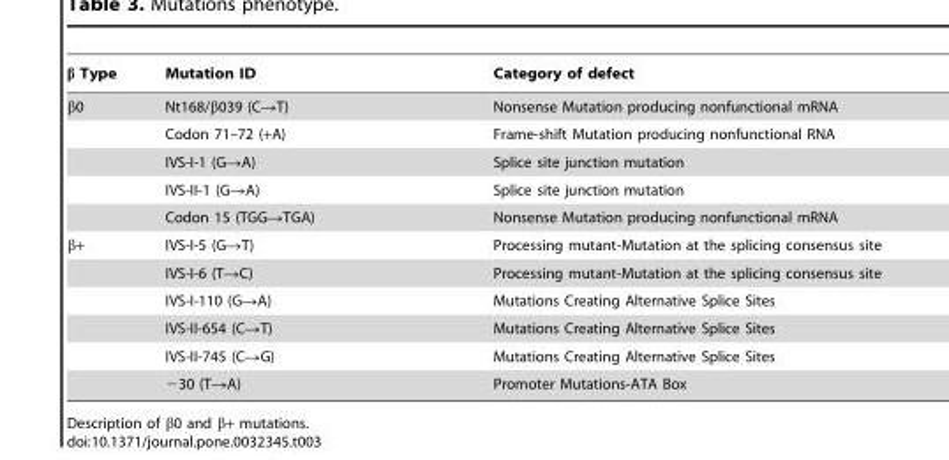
<table><thead><tr><td>β Type</td><td>Mutation ID</td><td>Category of defect</td></tr></thead><tbody><tr><td rowspan="5">β0</td><td>Nt168/β039 (C→T)</td><td>Nonsense Mutation producing nonfunctional mRNA</td></tr><tr><td>Codon 71–72 (+A)</td><td>Frame-shift Mutation producing nonfunctional RNA</td></tr><tr><td>IVS-I-1 (G→A)</td><td>Splice site junction mutation</td></tr><tr><td>IVS-II-1 (G→A)</td><td>Splice site junction mutation</td></tr><tr><td>Codon 15 (TGG→TGA)</td><td>Nonsense Mutation producing nonfunctional mRNA</td></tr><tr><td rowspan="6">β+</td><td>IVS-I-5 (G→T)</td><td>Processing mutant-Mutation at the splicing consensus site</td></tr><tr><td>IVS-I-6 (T→C)</td><td>Processing mutant-Mutation at the splicing consensus site</td></tr><tr><td>IVS-I-110 (G→A)</td><td>Mutations Creating Alternative Splice Sites</td></tr><tr><td>IVS-II-654 (C→T)</td><td>Mutations Creating Alternative Splice Sites</td></tr><tr><td>IVS-II-745 (C→G)</td><td>Mutations Creating Alternative Splice Sites</td></tr><tr><td>−30 (T→A)</td><td>Promoter Mutations-ATA Box</td></tr></tbody></table>